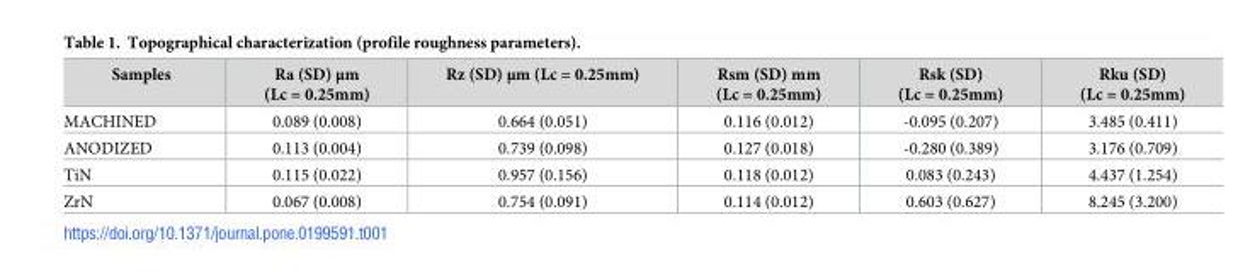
<table><thead><tr><td>Samples</td><td>Ra (SD) μm (Lc = 0.25mm)</td><td>Rz (SD) μm (Lc = 0.25mm)</td><td>Rsm (SD) mm (Lc = 0.25mm)</td><td>Rsk (SD) (Lc = 0.25mm)</td><td>Rku (SD) (Lc = 0.25mm)</td></tr></thead><tbody><tr><td>MACHINED</td><td>0.089 (0.008)</td><td>0.664 (0.051)</td><td>0.116 (0.012)</td><td>-0.095 (0.207)</td><td>3.485 (0.411)</td></tr><tr><td>ANODIZED</td><td>0.113 (0.004)</td><td>0.739 (0.098)</td><td>0.127 (0.018)</td><td>-0.280 (0.389)</td><td>3.176 (0.709)</td></tr><tr><td>TiN</td><td>0.115 (0.022)</td><td>0.957 (0.156)</td><td>0.118 (0.012)</td><td>0.083 (0.243)</td><td>4.437 (1.254)</td></tr><tr><td>ZrN</td><td>0.067 (0.008)</td><td>0.754 (0.091)</td><td>0.114 (0.012)</td><td>0.603 (0.627)</td><td>8.245 (3.200)</td></tr></tbody></table>